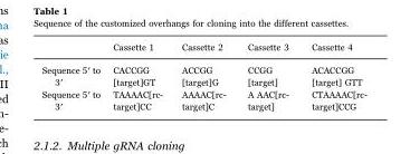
<table><thead><tr><td></td><td>Cassette 1</td><td>Cassette 2</td><td>Cassette 3</td><td>Cassette 4</td></tr></thead><tbody><tr><td>Sequence 5′ to 3′</td><td>CACCGG [target]GT</td><td>ACCGG [target]G</td><td>CCGG [target]</td><td>ACACCGG [target] GTT</td></tr><tr><td>Sequence 5′ to 3′</td><td>TAAAAC[rc- target]CC</td><td>AAAAC[rc- target]C</td><td>A AAC[rc- target]</td><td>CTAAAAC[rc- target]CCG</td></tr></tbody></table>